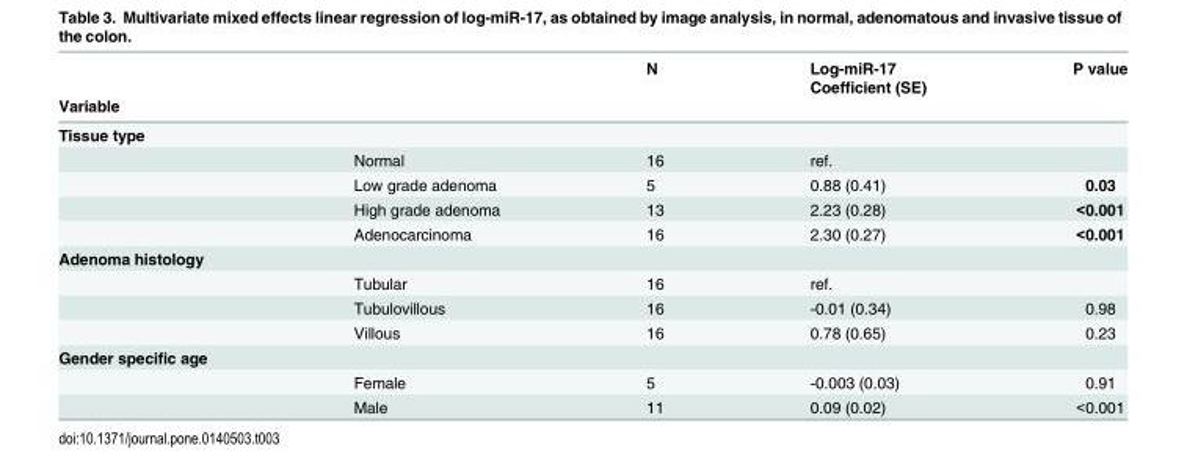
<table><thead><tr><td rowspan="2"></td><td rowspan="2"></td><td rowspan="3">N</td><td rowspan="3">Log-miR-17 Coefficient (SE)</td><td rowspan="3">P value</td></tr><tr></tr><tr><td colspan="2">Variable</td></tr></thead><tbody><tr><td colspan="5">Tissue type</td></tr><tr><td></td><td>Normal</td><td>16</td><td>ref.</td><td></td></tr><tr><td></td><td>Low grade adenoma</td><td>5</td><td>0.88 (0.41)</td><td>0.03</td></tr><tr><td></td><td>High grade adenoma</td><td>13</td><td>2.23 (0.28)</td><td>&lt;0.001</td></tr><tr><td></td><td>Adenocarcinoma</td><td>16</td><td>2.30 (0.27)</td><td>&lt;0.001</td></tr><tr><td colspan="5">Adenoma histology</td></tr><tr><td></td><td>Tubular</td><td>16</td><td>ref.</td><td></td></tr><tr><td></td><td>Tubulovillous</td><td>16</td><td>-0.01 (0.34)</td><td>0.98</td></tr><tr><td></td><td>Villous</td><td>16</td><td>0.78 (0.65)</td><td>0.23</td></tr><tr><td colspan="5">Gender specific age</td></tr><tr><td></td><td>Female</td><td>5</td><td>-0.003 (0.03)</td><td>0.91</td></tr><tr><td></td><td>Male</td><td>11</td><td>0.09 (0.02)</td><td>&lt;0.001</td></tr></tbody></table>